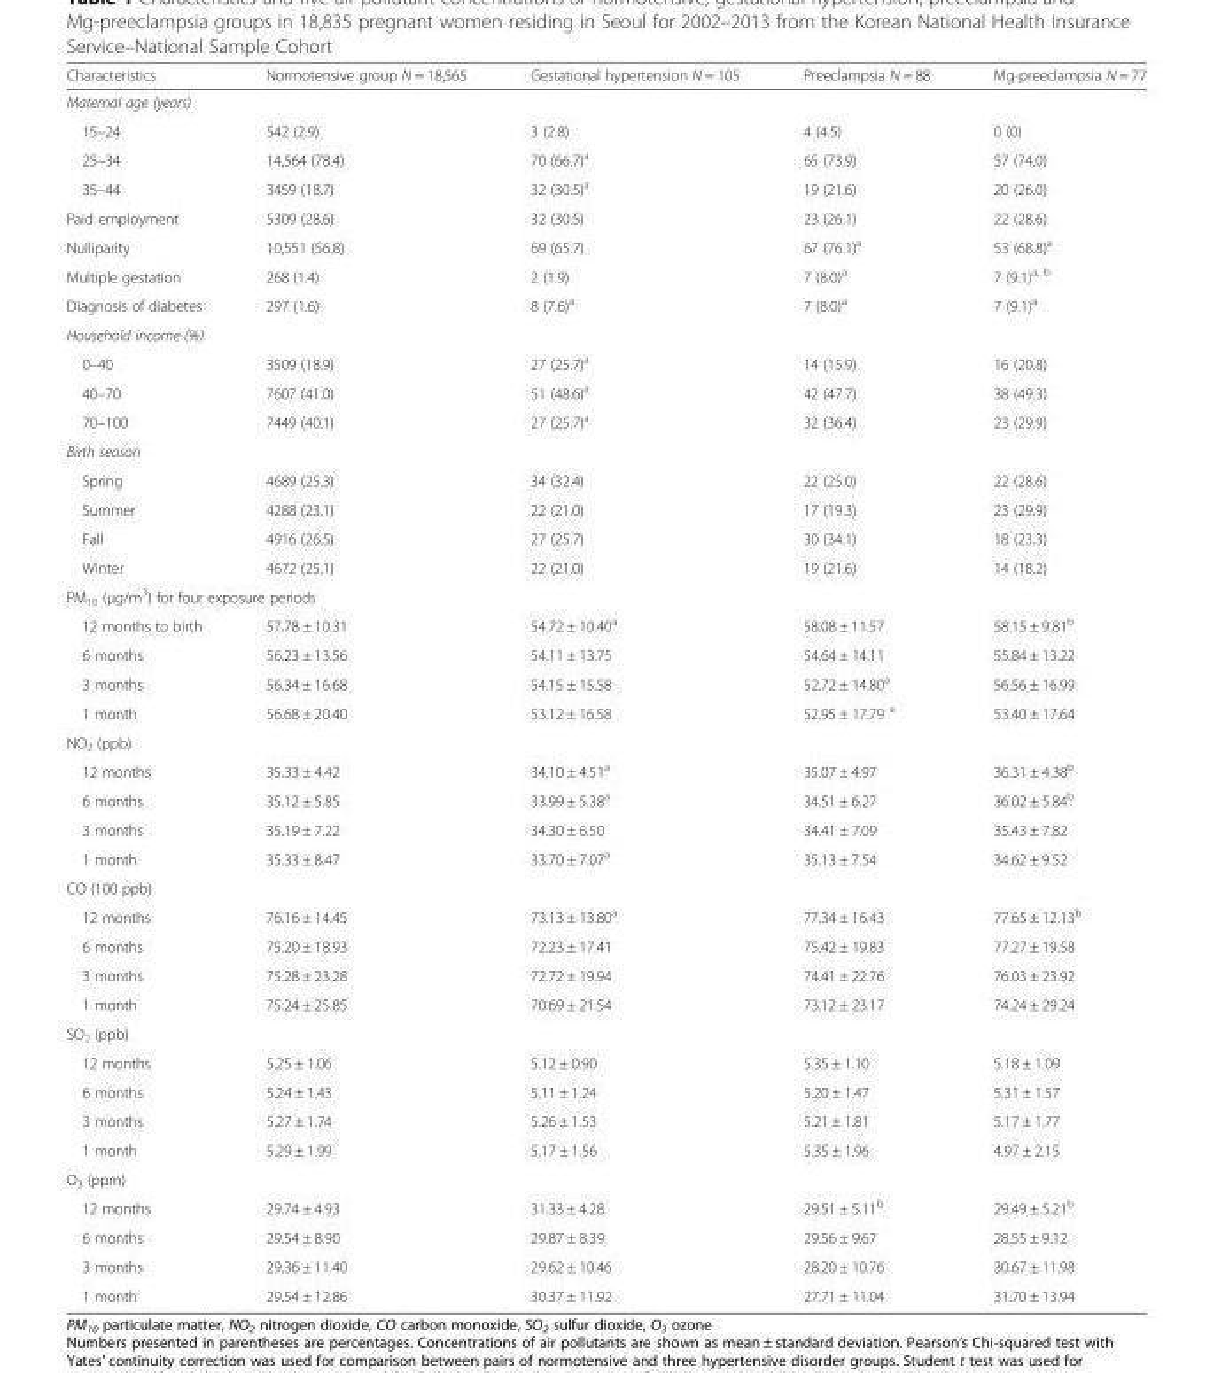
<table><thead><tr><td>Characteristics</td><td>Normotensive group N = 18,565</td><td>Gestational hypertension N = 105</td><td>Preeclampsia N = 88</td><td>Mg-preeclampsia N = 77</td></tr></thead><tbody><tr><td colspan="5">Maternal age (years)</td></tr><tr><td>15–24</td><td>542 (2.9)</td><td>3 (2.8)</td><td>4 (4.5)</td><td>0 (0)</td></tr><tr><td>25–34</td><td>14,564 (78.4)</td><td>70 (66.7)<sup>a</sup></td><td>65 (73.9)</td><td>57 (74.0)</td></tr><tr><td>35–44</td><td>3459 (18.7)</td><td>32 (30.5)<sup>a</sup></td><td>19 (21.6)</td><td>20 (26.0)</td></tr><tr><td>Paid employment</td><td>5309 (28.6)</td><td>32 (30.5)</td><td>23 (26.1)</td><td>22 (28.6)</td></tr><tr><td>Nulliparity</td><td>10,551 (56.8)</td><td>69 (65.7)</td><td>67 (76.1)<sup>a</sup></td><td>53 (68.8)<sup>a</sup></td></tr><tr><td>Multiple gestation</td><td>268 (1.4)</td><td>2 (1.9)</td><td>7 (8.0)<sup>a</sup></td><td>7 (9.1)<sup>a, b</sup></td></tr><tr><td>Diagnosis of diabetes</td><td>297 (1.6)</td><td>8 (7.6)<sup>a</sup></td><td>7 (8.0)<sup>a</sup></td><td>7 (9.1)<sup>a</sup></td></tr><tr><td colspan="5">Household income (%)</td></tr><tr><td>0–40</td><td>3509 (18.9)</td><td>27 (25.7)<sup>a</sup></td><td>14 (15.9)</td><td>16 (20.8)</td></tr><tr><td>40–70</td><td>7607 (41.0)</td><td>51 (48.6)<sup>a</sup></td><td>42 (47.7)</td><td>38 (49.3)</td></tr><tr><td>70–100</td><td>7449 (40.1)</td><td>27 (25.7)<sup>a</sup></td><td>32 (36.4)</td><td>23 (29.9)</td></tr><tr><td colspan="5">Birth season</td></tr><tr><td>Spring</td><td>4689 (25.3)</td><td>34 (32.4)</td><td>22 (25.0)</td><td>22 (28.6)</td></tr><tr><td>Summer</td><td>4288 (23.1)</td><td>22 (21.0)</td><td>17 (19.3)</td><td>23 (29.9)</td></tr><tr><td>Fall</td><td>4916 (26.5)</td><td>27 (25.7)</td><td>30 (34.1)</td><td>18 (23.3)</td></tr><tr><td>Winter</td><td>4672 (25.1)</td><td>22 (21.0)</td><td>19 (21.6)</td><td>14 (18.2)</td></tr><tr><td colspan="5">PM<sub>10</sub> (μg/m<sup>3</sup>) for four exposure periods</td></tr><tr><td>12 months to birth</td><td>57.78 ± 10.31</td><td>54.72 ± 10.40<sup>a</sup></td><td>58.08 ± 11.57</td><td>58.15 ± 9.81<sup>b</sup></td></tr><tr><td>6 months</td><td>56.23 ± 13.56</td><td>54.11 ± 13.75</td><td>54.64 ± 14.11</td><td>55.84 ± 13.22</td></tr><tr><td>3 months</td><td>56.34 ± 16.68</td><td>54.15 ± 15.58</td><td>52.72 ± 14.80<sup>a</sup></td><td>56.56 ± 16.99</td></tr><tr><td>1 month</td><td>56.68 ± 20.40</td><td>53.12 ± 16.58</td><td>52.95 ± 17.79 <sup>a</sup></td><td>53.40 ± 17.64</td></tr><tr><td colspan="5">NO<sub>2</sub> (ppb)</td></tr><tr><td>12 months</td><td>35.33 ± 4.42</td><td>34.10 ± 4.51<sup>a</sup></td><td>35.07 ± 4.97</td><td>36.31 ± 4.38<sup>b</sup></td></tr><tr><td>6 months</td><td>35.12 ± 5.85</td><td>33.99 ± 5.38<sup>a</sup></td><td>34.51 ± 6.27</td><td>36.02 ± 5.84<sup>b</sup></td></tr><tr><td>3 months</td><td>35.19 ± 7.22</td><td>34.30 ± 6.50</td><td>34.41 ± 7.09</td><td>35.43 ± 7.82</td></tr><tr><td>1 month</td><td>35.33 ± 8.47</td><td>33.70 ± 7.07<sup>a</sup></td><td>35.13 ± 7.54</td><td>34.62 ± 9.52</td></tr><tr><td colspan="5">CO (100 ppb)</td></tr><tr><td>12 months</td><td>76.16 ± 14.45</td><td>73.13 ± 13.80<sup>a</sup></td><td>77.34 ± 16.43</td><td>77.65 ± 12.13<sup>b</sup></td></tr><tr><td>6 months</td><td>75.20 ± 18.93</td><td>72.23 ± 17.41</td><td>75.42 ± 19.83</td><td>77.27 ± 19.58</td></tr><tr><td>3 months</td><td>75.28 ± 23.28</td><td>72.72 ± 19.94</td><td>74.41 ± 22.76</td><td>76.03 ± 23.92</td></tr><tr><td>1 month</td><td>75.24 ± 25.85</td><td>70.69 ± 21.54</td><td>73.12 ± 23.17</td><td>74.24 ± 29.24</td></tr><tr><td colspan="5">SO<sub>2</sub> (ppb)</td></tr><tr><td>12 months</td><td>5.25 ± 1.06</td><td>5.12 ± 0.90</td><td>5.35 ± 1.10</td><td>5.18 ± 1.09</td></tr><tr><td>6 months</td><td>5.24 ± 1.43</td><td>5.11 ± 1.24</td><td>5.20 ± 1.47</td><td>5.31 ± 1.57</td></tr><tr><td>3 months</td><td>5.27 ± 1.74</td><td>5.26 ± 1.53</td><td>5.21 ± 1.81</td><td>5.17 ± 1.77</td></tr><tr><td>1 month</td><td>5.29 ± 1.99</td><td>5.17 ± 1.56</td><td>5.35 ± 1.96</td><td>4.97 ± 2.15</td></tr><tr><td colspan="5">O<sub>3</sub> (ppm)</td></tr><tr><td>12 months</td><td>29.74 ± 4.93</td><td>31.33 ± 4.28</td><td>29.51 ± 5.11<sup>b</sup></td><td>29.49 ± 5.21<sup>b</sup></td></tr><tr><td>6 months</td><td>29.54 ± 8.90</td><td>29.87 ± 8.39</td><td>29.56 ± 9.67</td><td>28.55 ± 9.12</td></tr><tr><td>3 months</td><td>29.36 ± 11.40</td><td>29.62 ± 10.46</td><td>28.20 ± 10.76</td><td>30.67 ± 11.98</td></tr><tr><td>1 month</td><td>29.54 ± 12.86</td><td>30.37 ± 11.92</td><td>27.71 ± 11.04</td><td>31.70 ± 13.94</td></tr></tbody></table>